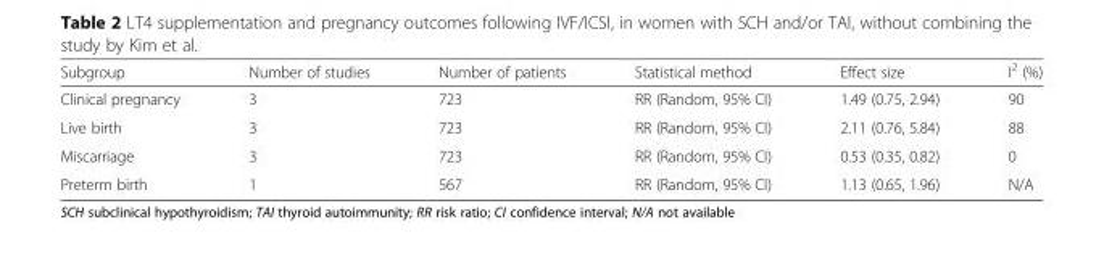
<table><thead><tr><td>Subgroup</td><td>Number of studies</td><td>Number of patients</td><td>Statistical method</td><td>Effect size</td><td>I<sup>2</sup> (%)</td></tr></thead><tbody><tr><td>Clinical pregnancy</td><td>3</td><td>723</td><td>RR (Random, 95% CI)</td><td>1.49 (0.75, 2.94)</td><td>90</td></tr><tr><td>Live birth</td><td>3</td><td>723</td><td>RR (Random, 95% CI)</td><td>2.11 (0.76, 5.84)</td><td>88</td></tr><tr><td>Miscarriage</td><td>3</td><td>723</td><td>RR (Random, 95% CI)</td><td>0.53 (0.35, 0.82)</td><td>0</td></tr><tr><td>Preterm birth</td><td>1</td><td>567</td><td>RR (Random, 95% CI)</td><td>1.13 (0.65, 1.96)</td><td>N/A</td></tr></tbody></table>